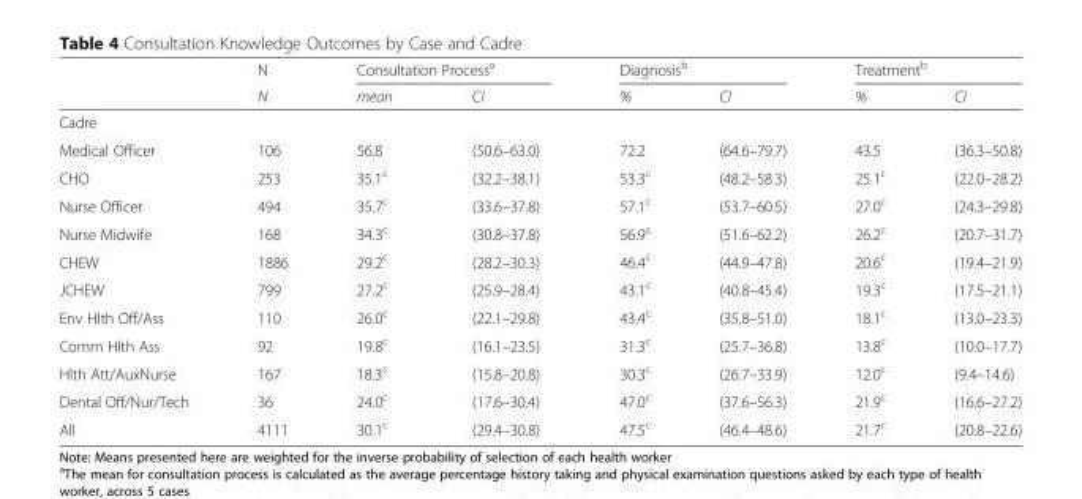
<table><thead><tr><td rowspan="2"></td><td rowspan="2">N N</td><td colspan="2">Consultation Process<sup>a</sup></td><td colspan="2">Diagnosis<sup>b</sup></td><td colspan="2">Treatment<sup>b</sup></td></tr><tr><td>mean</td><td>CI</td><td>%</td><td>CI</td><td>%</td><td>CI</td></tr></thead><tbody><tr><td colspan="8">Cadre</td></tr><tr><td>Medical Officer</td><td>106</td><td>56.8</td><td>(50.6–63.0)</td><td>72.2</td><td>(64.6–79.7)</td><td>43.5</td><td>(36.3–50.8)</td></tr><tr><td>CHO</td><td>253</td><td>35.1<sup>c</sup></td><td>(32.2–38.1)</td><td>53.3<sup>c</sup></td><td>(48.2–58.3)</td><td>25.1<sup>c</sup></td><td>(22.0–28.2)</td></tr><tr><td>Nurse Officer</td><td>494</td><td>35.7<sup>c</sup></td><td>(33.6–37.8)</td><td>57.1<sup>c</sup></td><td>(53.7–60.5)</td><td>27.0<sup>c</sup></td><td>(24.3–29.8)</td></tr><tr><td>Nurse Midwife</td><td>168</td><td>34.3<sup>c</sup></td><td>(30.8–37.8)</td><td>56.9<sup>c</sup></td><td>(51.6–62.2)</td><td>26.2<sup>c</sup></td><td>(20.7–31.7)</td></tr><tr><td>CHEW</td><td>1886</td><td>29.2<sup>c</sup></td><td>(28.2–30.3)</td><td>46.4<sup>c</sup></td><td>(44.9–47.8)</td><td>20.6<sup>c</sup></td><td>(19.4–21.9)</td></tr><tr><td>JCHEW</td><td>799</td><td>27.2<sup>c</sup></td><td>(25.9–28.4)</td><td>43.1<sup>c</sup></td><td>(40.8–45.4)</td><td>19.3<sup>c</sup></td><td>(17.5–21.1)</td></tr><tr><td>Env Hlth Off/Ass</td><td>110</td><td>26.0<sup>c</sup></td><td>(22.1–29.8)</td><td>43.4<sup>c</sup></td><td>(35.8–51.0)</td><td>18.1<sup>c</sup></td><td>(13.0–23.3)</td></tr><tr><td>Comm Hlth Ass</td><td>92</td><td>19.8<sup>c</sup></td><td>(16.1–23.5)</td><td>31.3<sup>c</sup></td><td>(25.7–36.8)</td><td>13.8<sup>c</sup></td><td>(10.0–17.7)</td></tr><tr><td>Hlth Att/AuxNurse</td><td>167</td><td>18.3<sup>c</sup></td><td>(15.8–20.8)</td><td>30.3<sup>c</sup></td><td>(26.7–33.9)</td><td>12.0<sup>c</sup></td><td>(9.4–14.6)</td></tr><tr><td>Dental Off/Nur/Tech</td><td>36</td><td>24.0<sup>c</sup></td><td>(17.6–30.4)</td><td>47.0<sup>c</sup></td><td>(37.6–56.3)</td><td>21.9<sup>c</sup></td><td>(16.6–27.2)</td></tr><tr><td>All</td><td>4111</td><td>30.1<sup>c</sup></td><td>(29.4–30.8)</td><td>47.5<sup>c</sup></td><td>(46.4–48.6)</td><td>21.7<sup>c</sup></td><td>(20.8–22.6)</td></tr></tbody></table>